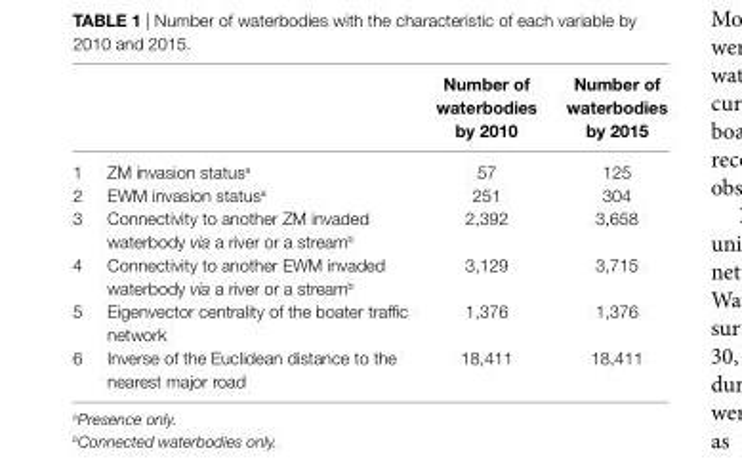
<table><thead><tr><td></td><td></td><td>number of waterbodies by 2010</td><td>number of waterbodies by 2015</td></tr></thead><tbody><tr><td>1</td><td>ZM invasion status<sup>a</sup></td><td>57</td><td>125</td></tr><tr><td>2</td><td>EWM invasion status<sup>a</sup></td><td>251</td><td>304</td></tr><tr><td>3</td><td>Connectivity to another ZM invaded waterbody via a river or a stream<sup>b</sup></td><td>2,392</td><td>3,658</td></tr><tr><td>4</td><td>Connectivity to another EWM invaded waterbody via a river or a stream<sup>b</sup></td><td>3,129</td><td>3,715</td></tr><tr><td>5</td><td>Eigenvector centrality of the boater traffic network</td><td>1,376</td><td>1,376</td></tr><tr><td>6</td><td>Inverse of the Euclidean distance to the nearest major road</td><td>18,411</td><td>18,411</td></tr></tbody></table>